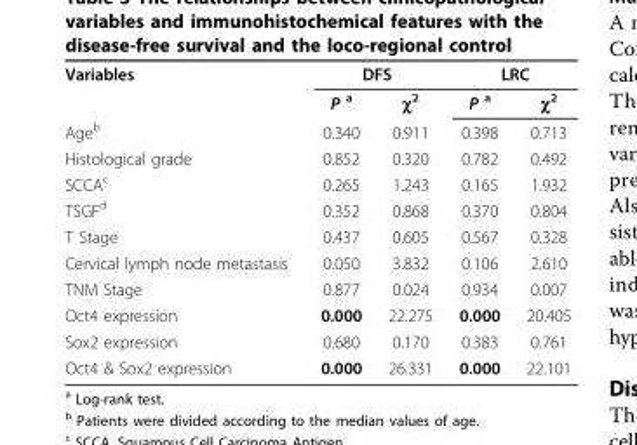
<table><tbody><tr><td rowspan="2">Variables</td><td colspan="2">DFS</td><td colspan="2">LRC</td></tr><tr><td>P <sup>a</sup></td><td>χ<sup>2</sup></td><td>P <sup>a</sup></td><td>χ<sup>2</sup></td></tr><tr><td>Age<sup>b</sup></td><td>0.340</td><td>0.911</td><td>0.398</td><td>0.713</td></tr><tr><td>Histological grade</td><td>0.852</td><td>0.320</td><td>0.782</td><td>0.492</td></tr><tr><td>SCCA<sup>c</sup></td><td>0.265</td><td>1.243</td><td>0.165</td><td>1.932</td></tr><tr><td>TSGF<sup>d</sup></td><td>0.352</td><td>0.868</td><td>0.370</td><td>0.804</td></tr><tr><td>T Stage</td><td>0.437</td><td>0.605</td><td>0.567</td><td>0.328</td></tr><tr><td>Cervical lymph node metastasis</td><td>0.050</td><td>3.832</td><td>0.106</td><td>2.610</td></tr><tr><td>TNM Stage</td><td>0.877</td><td>0.024</td><td>0.934</td><td>0.007</td></tr><tr><td>Oct4 expression</td><td>0.000</td><td>22.275</td><td>0.000</td><td>20.405</td></tr><tr><td>Sox2 expression</td><td>0.680</td><td>0.170</td><td>0.383</td><td>0.761</td></tr><tr><td>Oct4 &amp; Sox2 expression</td><td>0.000</td><td>26.331</td><td>0.000</td><td>22.101</td></tr></tbody></table>